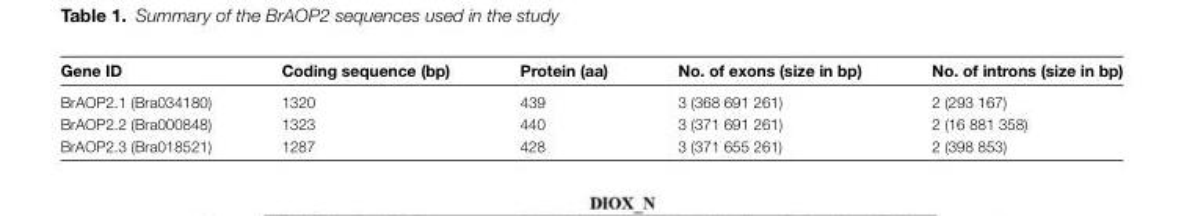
<table><thead><tr><td>Gene ID</td><td>Coding sequence (bp)</td><td>Protein (aa)</td><td>No. of exons (size in bp)</td><td>No. of introns (size in bp)</td></tr></thead><tbody><tr><td>BrAOP2.1 (Bra034180)</td><td>1320</td><td>439</td><td>3 (368 691 261)</td><td>2 (293 167)</td></tr><tr><td>BrAOP2.2 (Bra000848)</td><td>1323</td><td>440</td><td>3 (371 691 261)</td><td>2 (16 881 358)</td></tr><tr><td>BrAOP2.3 (Bra018521)</td><td>1287</td><td>428</td><td>3 (371 655 261)</td><td>2 (398 853)</td></tr></tbody></table>